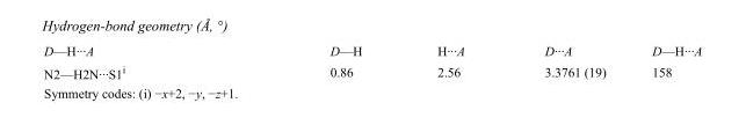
<table><tbody><tr><td>D—H···A</td><td>D—H</td><td>H···A</td><td>D···A</td><td>D—H···A</td></tr><tr><td>N2—H2N···S1<sup>i</sup></td><td>0.86</td><td>2.56</td><td>3.3761 (19)</td><td>158</td></tr></tbody></table>